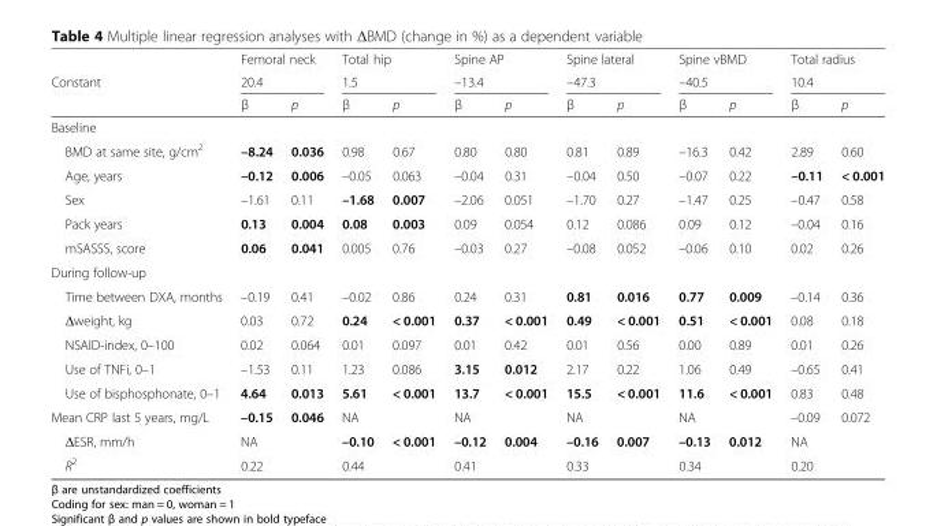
<table><thead><tr><td rowspan="3">Constant</td><td rowspan="2" colspan="2">Femoral neck 20.4</td><td rowspan="2" colspan="2">Total hip 1.5</td><td rowspan="2" colspan="2">Spine AP –13.4</td><td rowspan="2" colspan="2">Spine lateral –47.3</td><td rowspan="2" colspan="2">Spine vBMD –40.5</td><td rowspan="2" colspan="2">Total radius 10.4</td></tr><tr></tr><tr><td>β</td><td>p</td><td>β</td><td>p</td><td>β</td><td>p</td><td>β</td><td>p</td><td>β</td><td>p</td><td>β</td><td>p</td></tr></thead><tbody><tr><td colspan="13">Baseline</td></tr><tr><td>BMD at same site, g/cm<sup>2</sup></td><td>–8.24</td><td>0.036</td><td>0.98</td><td>0.67</td><td>0.80</td><td>0.80</td><td>0.81</td><td>0.89</td><td>–16.3</td><td>0.42</td><td>2.89</td><td>0.60</td></tr><tr><td>Age, years</td><td>–0.12</td><td>0.006</td><td>–0.05</td><td>0.063</td><td>–0.04</td><td>0.31</td><td>–0.04</td><td>0.50</td><td>–0.07</td><td>0.22</td><td>–0.11</td><td>&lt; 0.001</td></tr><tr><td>Sex</td><td>–1.61</td><td>0.11</td><td>–1.68</td><td>0.007</td><td>–2.06</td><td>0.051</td><td>–1.70</td><td>0.27</td><td>–1.47</td><td>0.25</td><td>–0.47</td><td>0.58</td></tr><tr><td>Pack years</td><td>0.13</td><td>0.004</td><td>0.08</td><td>0.003</td><td>0.09</td><td>0.054</td><td>0.12</td><td>0.086</td><td>0.09</td><td>0.12</td><td>–0.04</td><td>0.16</td></tr><tr><td>mSASSS, score</td><td>0.06</td><td>0.041</td><td>0.005</td><td>0.76</td><td>–0.03</td><td>0.27</td><td>–0.08</td><td>0.052</td><td>–0.06</td><td>0.10</td><td>0.02</td><td>0.26</td></tr><tr><td colspan="13">During follow-up</td></tr><tr><td>Time between DXA, months</td><td>–0.19</td><td>0.41</td><td>–0.02</td><td>0.86</td><td>0.24</td><td>0.31</td><td>0.81</td><td>0.016</td><td>0.77</td><td>0.009</td><td>–0.14</td><td>0.36</td></tr><tr><td>Δweight, kg</td><td>0.03</td><td>0.72</td><td>0.24</td><td>&lt; 0.001</td><td>0.37</td><td>&lt; 0.001</td><td>0.49</td><td>&lt; 0.001</td><td>0.51</td><td>&lt; 0.001</td><td>0.08</td><td>0.18</td></tr><tr><td>NSAID-index, 0–100</td><td>0.02</td><td>0.064</td><td>0.01</td><td>0.097</td><td>0.01</td><td>0.42</td><td>0.01</td><td>0.56</td><td>0.00</td><td>0.89</td><td>0.01</td><td>0.26</td></tr><tr><td>Use of TNFi, 0–1</td><td>–1.53</td><td>0.11</td><td>1.23</td><td>0.086</td><td>3.15</td><td>0.012</td><td>2.17</td><td>0.22</td><td>1.06</td><td>0.49</td><td>–0.65</td><td>0.41</td></tr><tr><td>Use of bisphosphonate, 0–1</td><td>4.64</td><td>0.013</td><td>5.61</td><td>&lt; 0.001</td><td>13.7</td><td>&lt; 0.001</td><td>15.5</td><td>&lt; 0.001</td><td>11.6</td><td>&lt; 0.001</td><td>0.83</td><td>0.48</td></tr><tr><td>Mean CRP last 5 years, mg/L</td><td>–0.15</td><td>0.046</td><td>NA</td><td></td><td>NA</td><td></td><td>NA</td><td></td><td>NA</td><td></td><td>–0.09</td><td>0.072</td></tr><tr><td>ΔESR, mm/h</td><td>NA</td><td></td><td>–0.10</td><td>&lt; 0.001</td><td>–0.12</td><td>0.004</td><td>–0.16</td><td>0.007</td><td>–0.13</td><td>0.012</td><td>NA</td><td></td></tr><tr><td>R<sup>2</sup></td><td>0.22</td><td></td><td>0.44</td><td></td><td>0.41</td><td></td><td>0.33</td><td></td><td>0.34</td><td></td><td>0.20</td><td></td></tr></tbody></table>